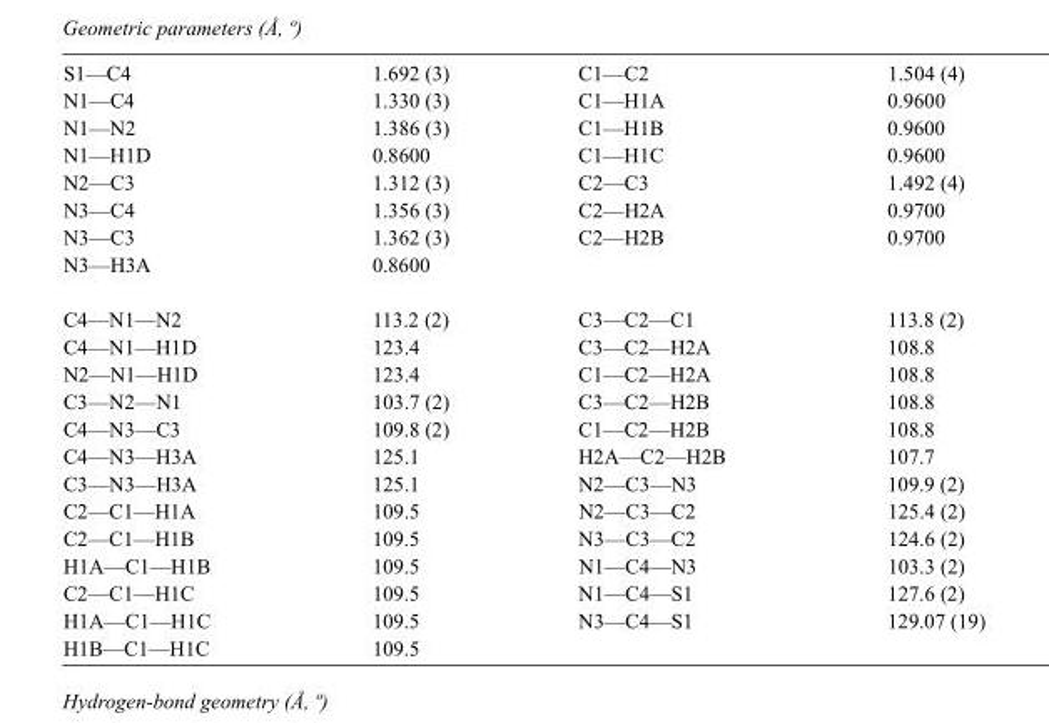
<table><tbody><tr><td>S1—C4</td><td>1.692 (3)</td><td>C1—C2</td><td>1.504 (4)</td></tr><tr><td>N1—C4</td><td>1.330 (3)</td><td>C1—H1A</td><td>0.9600</td></tr><tr><td>N1—N2</td><td>1.386 (3)</td><td>C1—H1B</td><td>0.9600</td></tr><tr><td>N1—H1D</td><td>0.8600</td><td>C1—H1C</td><td>0.9600</td></tr><tr><td>N2—C3</td><td>1.312 (3)</td><td>C2—C3</td><td>1.492 (4)</td></tr><tr><td>N3—C4</td><td>1.356 (3)</td><td>C2—H2A</td><td>0.9700</td></tr><tr><td>N3—C3</td><td>1.362 (3)</td><td>C2—H2B</td><td>0.9700</td></tr><tr><td>N3—H3A</td><td>0.8600</td><td></td><td></td></tr><tr><td>C4—N1—N2</td><td>113.2 (2)</td><td>C3—C2—C1</td><td>113.8 (2)</td></tr><tr><td>C4—N1—H1D</td><td>123.4</td><td>C3—C2—H2A</td><td>108.8</td></tr><tr><td>N2—N1—H1D</td><td>123.4</td><td>C1—C2—H2A</td><td>108.8</td></tr><tr><td>C3—N2—N1</td><td>103.7 (2)</td><td>C3—C2—H2B</td><td>108.8</td></tr><tr><td>C4—N3—C3</td><td>109.8 (2)</td><td>C1—C2—H2B</td><td>108.8</td></tr><tr><td>C4—N3—H3A</td><td>125.1</td><td>H2A—C2—H2B</td><td>107.7</td></tr><tr><td>C3—N3—H3A</td><td>125.1</td><td>N2—C3—N3</td><td>109.9 (2)</td></tr><tr><td>C2—C1—H1A</td><td>109.5</td><td>N2—C3—C2</td><td>125.4 (2)</td></tr><tr><td>C2—C1—H1B</td><td>109.5</td><td>N3—C3—C2</td><td>124.6 (2)</td></tr><tr><td>H1A—C1—H1B</td><td>109.5</td><td>N1—C4—N3</td><td>103.3 (2)</td></tr><tr><td>C2—C1—H1C</td><td>109.5</td><td>N1—C4—S1</td><td>127.6 (2)</td></tr><tr><td>H1A—C1—H1C</td><td>109.5</td><td>N3—C4—S1</td><td>129.07 (19)</td></tr><tr><td>H1B—C1—H1C</td><td>109.5</td><td></td><td></td></tr></tbody></table>